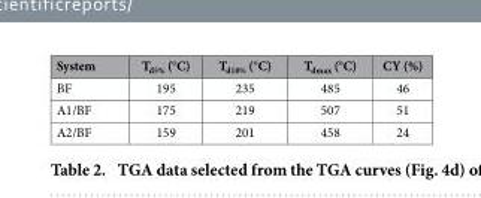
<table><thead><tr><td>System</td><td>T<sub>d5%</sub> (°C)</td><td>T<sub>d10%</sub> (°C)</td><td>T<sub>dmax</sub> (°C)</td><td>CY (%)</td></tr></thead><tbody><tr><td>BF</td><td>195</td><td>235</td><td>485</td><td>46</td></tr><tr><td>A1/BF</td><td>175</td><td>219</td><td>507</td><td>51</td></tr><tr><td>A2/BF</td><td>159</td><td>201</td><td>458</td><td>24</td></tr></tbody></table>